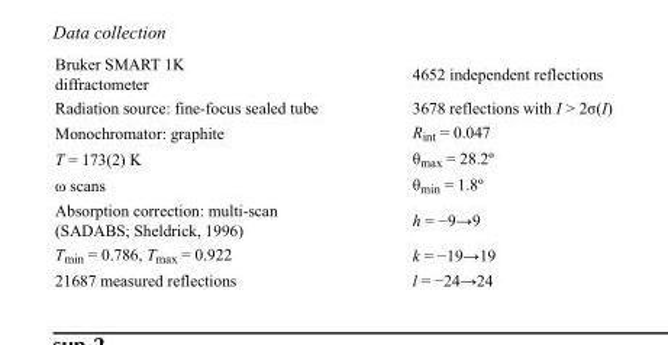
<table><tbody><tr><td>Bruker SMART 1K diffractometer</td><td>4652 independent reflections</td></tr><tr><td>Radiation source: fine-focus sealed tube</td><td>3678 reflections with I &gt; 2σ(I)</td></tr><tr><td>Monochromator: graphite</td><td>R<sub>int</sub> = 0.047</td></tr><tr><td>T = 173(2) K</td><td>θ<sub>max</sub> = 28.2º</td></tr><tr><td>ω scans</td><td>θ<sub>min</sub> = 1.8º</td></tr><tr><td>Absorption correction: multi-scan (SADABS; Sheldrick, 1996)</td><td>h = −9→9</td></tr><tr><td>T<sub>min</sub> = 0.786, T<sub>max</sub> = 0.922</td><td>k = −19→19</td></tr><tr><td>21687 measured reflections</td><td>l = −24→24</td></tr></tbody></table>